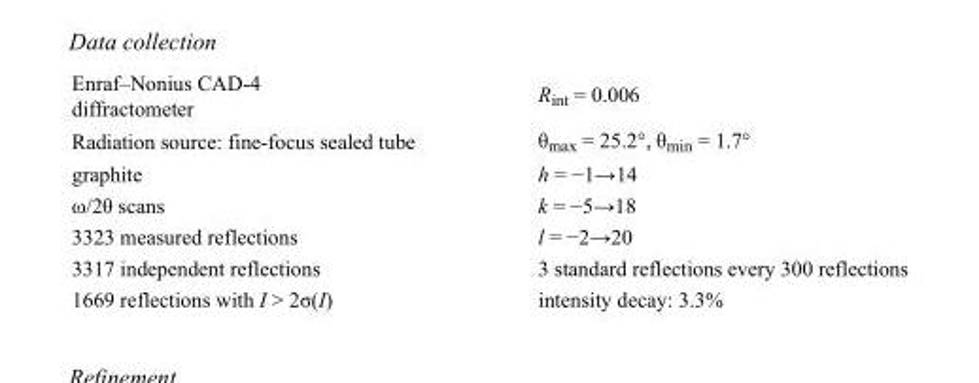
<table><tbody><tr><td>Enraf–Nonius CAD-4 diffractometer</td><td>R<sub>int</sub> = 0.006</td></tr><tr><td>Radiation source: fine-focus sealed tube</td><td>θ<sub>max</sub> = 25.2°, θ<sub>min</sub> = 1.7°</td></tr><tr><td>graphite</td><td>h = −1→14</td></tr><tr><td>ω/2θ scans</td><td>k = −5→18</td></tr><tr><td>3323 measured reflections</td><td>l = −2→20</td></tr><tr><td>3317 independent reflections</td><td>3 standard reflections every 300 reflections</td></tr><tr><td>1669 reflections with I &gt; 2σ(I)</td><td>intensity decay: 3.3%</td></tr></tbody></table>